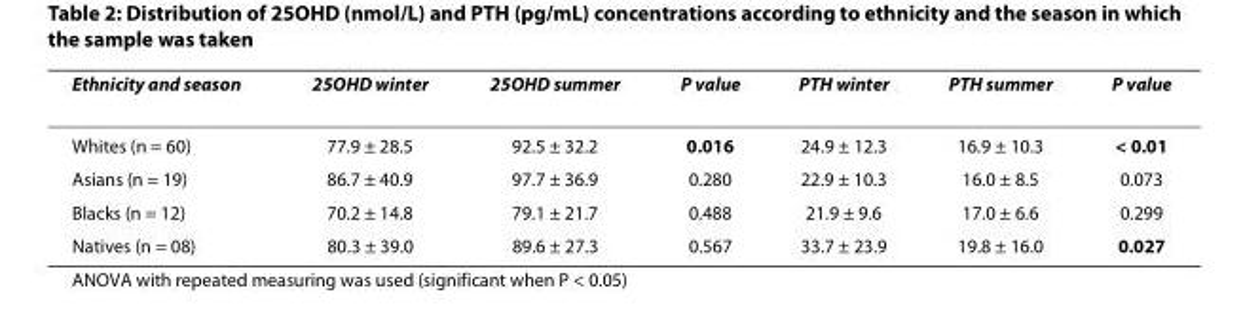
<table><thead><tr><td>Ethnicity and season</td><td>25OHD winter</td><td>25OHD summer</td><td>P value</td><td>PTH winter</td><td>PTH summer</td><td>P value</td></tr></thead><tbody><tr><td>Whites (n = 60)</td><td>77.9 ± 28.5</td><td>92.5 ± 32.2</td><td>0.016</td><td>24.9 ± 12.3</td><td>16.9 ± 10.3</td><td>&lt; 0.01</td></tr><tr><td>Asians (n = 19)</td><td>86.7 ± 40.9</td><td>97.7 ± 36.9</td><td>0.280</td><td>22.9 ± 10.3</td><td>16.0 ± 8.5</td><td>0.073</td></tr><tr><td>Blacks (n = 12)</td><td>70.2 ± 14.8</td><td>79.1 ± 21.7</td><td>0.488</td><td>21.9 ± 9.6</td><td>17.0 ± 6.6</td><td>0.299</td></tr><tr><td>Natives (n = 08)</td><td>80.3 ± 39.0</td><td>89.6 ± 27.3</td><td>0.567</td><td>33.7 ± 23.9</td><td>19.8 ± 16.0</td><td>0.027</td></tr></tbody></table>